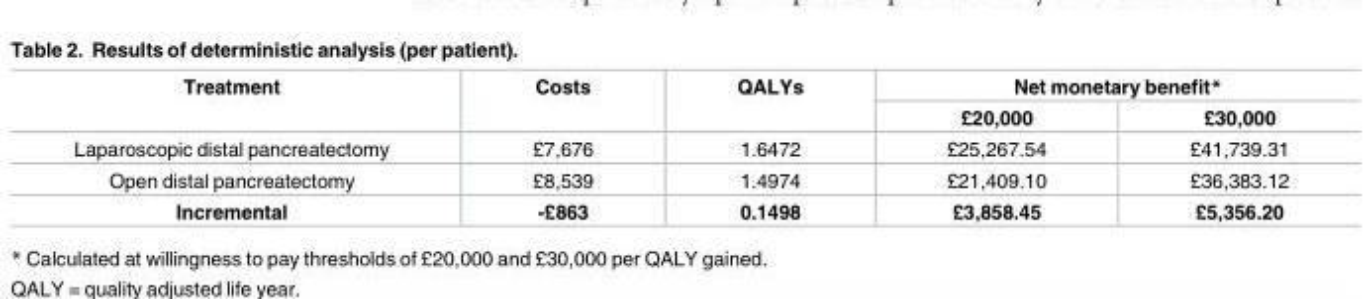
<table><thead><tr><td rowspan="2">Treatment</td><td rowspan="2">Costs</td><td rowspan="2">QALYs</td><td colspan="2">Net monetary benefit*</td></tr><tr><td>£20,000</td><td>£30,000</td></tr></thead><tbody><tr><td>Laparoscopic distal pancreatectomy</td><td>£7,676</td><td>1.6472</td><td>£25,267.54</td><td>£41,739.31</td></tr><tr><td>Open distal pancreatectomy</td><td>£8,539</td><td>1.4974</td><td>£21,409.10</td><td>£36,383.12</td></tr><tr><td>Incremental</td><td>-£863</td><td>0.1498</td><td>£3,858.45</td><td>£5,356.20</td></tr></tbody></table>